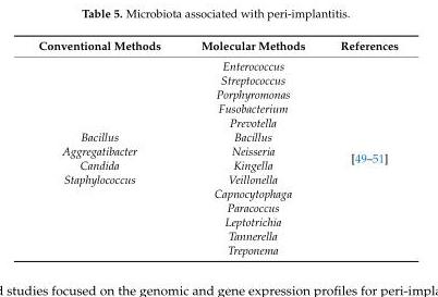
<table><thead><tr><td>Conventional Methods</td><td>Molecular Methods</td><td>References</td></tr></thead><tbody><tr><td>Bacillus Aggregatibacter Candida Staphylococcus</td><td>Enterococcus Streptococcus Porphyromonas Fusobacterium Prevotella Bacillus Neisseria Kingella Veillonella Capnocytophaga Paracoccus Leptotrichia Tannerella Treponema</td><td>[49–51]</td></tr></tbody></table>